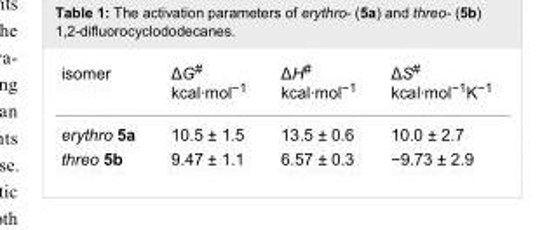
<table><tbody><tr><td>isomer</td><td>ΔG<sup>#</sup> kcal·mol<sup>−1</sup></td><td>ΔH<sup>#</sup> kcal·mol<sup>−1</sup></td><td>ΔS<sup>#</sup> kcal·mol<sup>−1</sup>K<sup>−1</sup></td></tr><tr><td>erythro 5a</td><td>10.5 ± 1.5</td><td>13.5 ± 0.6</td><td>10.0 ± 2.7</td></tr><tr><td>threo 5b</td><td>9.47 ± 1.1</td><td>6.57 ± 0.3</td><td>−9.73 ± 2.9</td></tr></tbody></table>